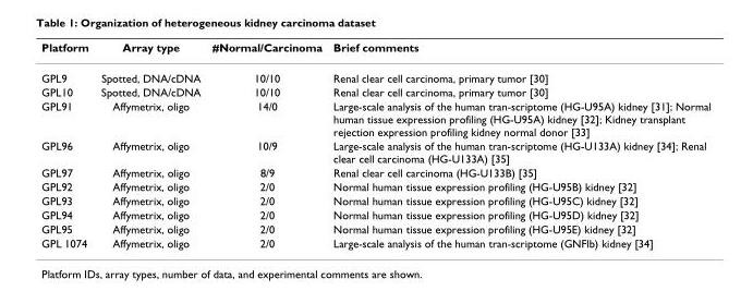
<table><thead><tr><td>Platform</td><td>Array type</td><td>#Normal/Carcinoma</td><td>Brief comments</td></tr></thead><tbody><tr><td>GPL9</td><td>Spotted, DNA/cDNA</td><td>10/10</td><td>Renal clear cell carcinoma, primary tumor [30]</td></tr><tr><td>GPL10</td><td>Spotted, DNA/cDNA</td><td>10/10</td><td>Renal clear cell carcinoma, primary tumor [30]</td></tr><tr><td>GPL91</td><td>Affymetrix, oligo</td><td>14/0</td><td>Large-scale analysis of the human tran-scriptome (HG-U95A) kidney [31]; Normal human tissue expression profiling (HG-U95A) kidney [32]; Kidney transplant rejection expression profiling kidney normal donor [33]</td></tr><tr><td>GPL96</td><td>Affymetrix, oligo</td><td>10/9</td><td>Large-scale analysis of the human tran-scriptome (HG-U133A) kidney [34]; Renal clear cell carcinoma (HG-U133A) [35]</td></tr><tr><td>GPL97</td><td>Affymetrix, oligo</td><td>8/9</td><td>Renal clear cell carcinoma (HG-U133B) [35]</td></tr><tr><td>GPL92</td><td>Affymetrix, oligo</td><td>2/0</td><td>Normal human tissue expression profiling (HG-U95B) kidney [32]</td></tr><tr><td>GPL93</td><td>Affymetrix, oligo</td><td>2/0</td><td>Normal human tissue expression profiling (HG-U95C) kidney [32]</td></tr><tr><td>GPL94</td><td>Affymetrix, oligo</td><td>2/0</td><td>Normal human tissue expression profiling (HG-U95D) kidney [32]</td></tr><tr><td>GPL95</td><td>Affymetrix, oligo</td><td>2/0</td><td>Normal human tissue expression profiling (HG-U95E) kidney [32]</td></tr><tr><td>GPL 1074</td><td>Affymetrix, oligo</td><td>2/0</td><td>Large-scale analysis of the human tran-scriptome (GNFlb) kidney [34]</td></tr></tbody></table>